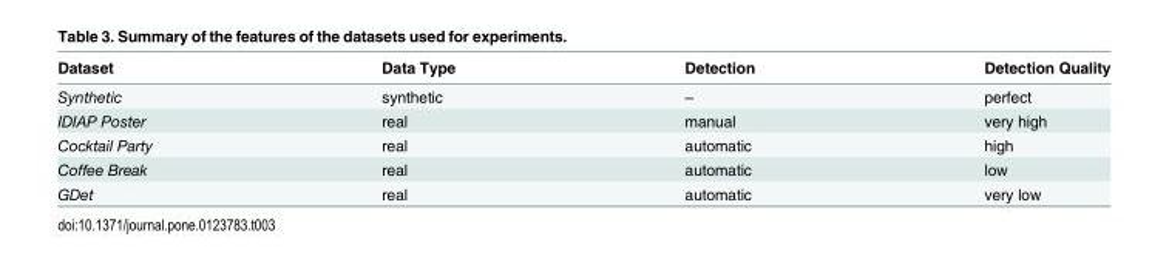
<table><thead><tr><td>Dataset</td><td>Data Type</td><td>Detection</td><td>Detection Quality</td></tr></thead><tbody><tr><td>Synthetic</td><td>synthetic</td><td>–</td><td>perfect</td></tr><tr><td>IDIAP Poster</td><td>real</td><td>manual</td><td>very high</td></tr><tr><td>Cocktail Party</td><td>real</td><td>automatic</td><td>high</td></tr><tr><td>Coffee Break</td><td>real</td><td>automatic</td><td>low</td></tr><tr><td>GDet</td><td>real</td><td>automatic</td><td>very low</td></tr></tbody></table>